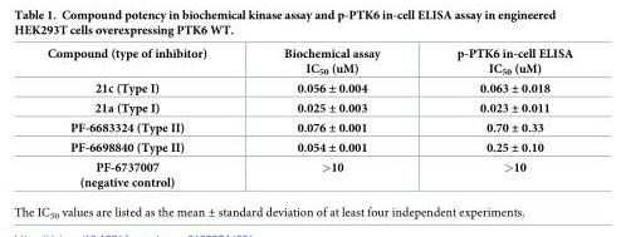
<table><thead><tr><td>Compound (type of inhibitor)</td><td>Biochemical assay IC<sub>50</sub> (uM)</td><td>p-PTK6 in-cell ELISA IC<sub>50</sub> (uM)</td></tr></thead><tbody><tr><td>21c (Type I)</td><td>0.056 ± 0.004</td><td>0.063 ± 0.018</td></tr><tr><td>21a (Type I)</td><td>0.025 ± 0.003</td><td>0.023 ± 0.011</td></tr><tr><td>PF-6683324 (Type II)</td><td>0.076 ± 0.001</td><td>0.70 ± 0.33</td></tr><tr><td>PF-6698840 (Type II)</td><td>0.054 ± 0.001</td><td>0.25 ± 0.10</td></tr><tr><td>PF-6737007 (negative control)</td><td>&gt;10</td><td>&gt;10</td></tr></tbody></table>